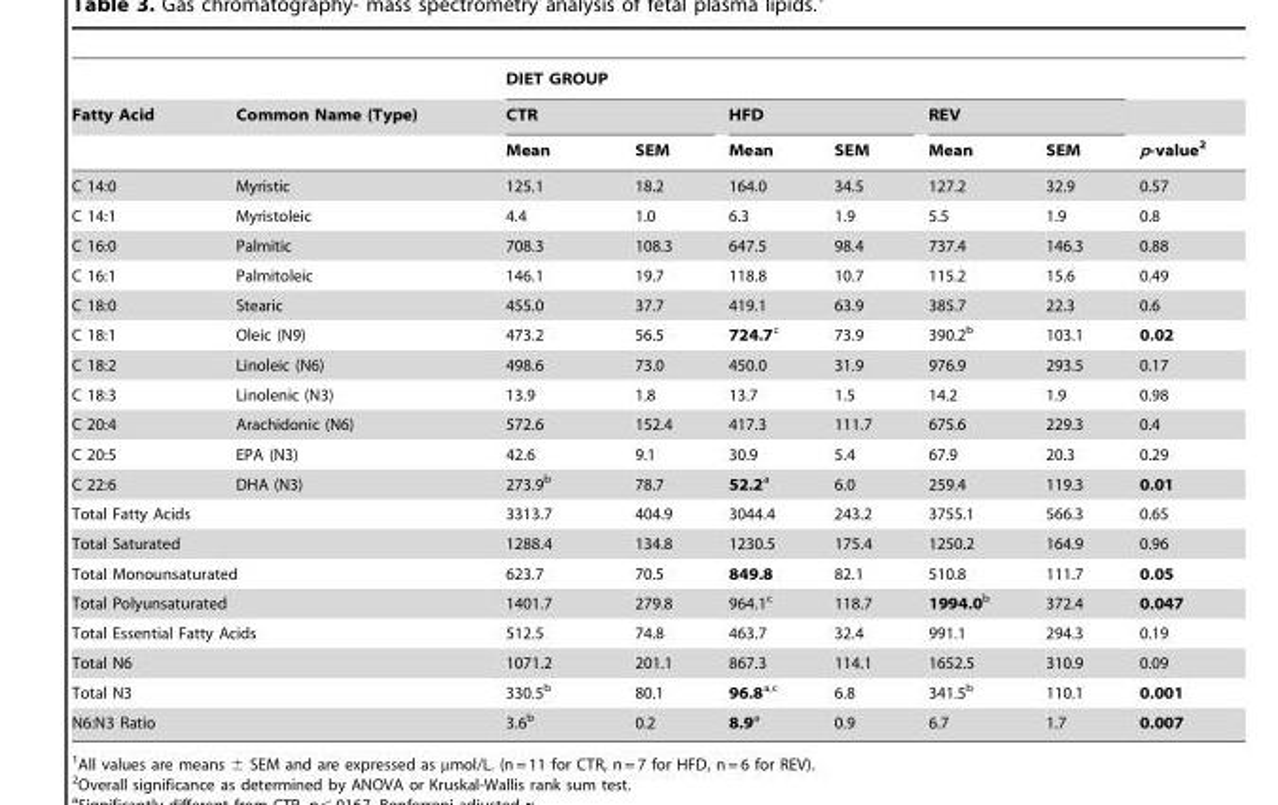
<table><thead><tr><td rowspan="3">Fatty Acid</td><td rowspan="3">Common Name (Type)</td><td colspan="6">DIET GROUP</td><td rowspan="3">p-value<sup>2</sup></td></tr><tr><td colspan="2">CTR</td><td colspan="2">HFD</td><td colspan="2">REV</td></tr><tr><td>Mean</td><td>SEM</td><td>Mean</td><td>SEM</td><td>Mean</td><td>SEM</td></tr></thead><tbody><tr><td>C 14:0</td><td>Myristic</td><td>125.1</td><td>18.2</td><td>164.0</td><td>34.5</td><td>127.2</td><td>32.9</td><td>0.57</td></tr><tr><td>C 14:1</td><td>Myristoleic</td><td>4.4</td><td>1.0</td><td>6.3</td><td>1.9</td><td>5.5</td><td>1.9</td><td>0.8</td></tr><tr><td>C 16:0</td><td>Palmitic</td><td>708.3</td><td>108.3</td><td>647.5</td><td>98.4</td><td>737.4</td><td>146.3</td><td>0.88</td></tr><tr><td>C 16:1</td><td>Palmitoleic</td><td>146.1</td><td>19.7</td><td>118.8</td><td>10.7</td><td>115.2</td><td>15.6</td><td>0.49</td></tr><tr><td>C 18:0</td><td>Stearic</td><td>455.0</td><td>37.7</td><td>419.1</td><td>63.9</td><td>385.7</td><td>22.3</td><td>0.6</td></tr><tr><td>C 18:1</td><td>Oleic (N9)</td><td>473.2</td><td>56.5</td><td>724.7c</td><td>73.9</td><td>390.2<sup>b</sup></td><td>103.1</td><td>0.02</td></tr><tr><td>C 18:2</td><td>Linoleic (N6)</td><td>498.6</td><td>73.0</td><td>450.0</td><td>31.9</td><td>976.9</td><td>293.5</td><td>0.17</td></tr><tr><td>C 18:3</td><td>Linolenic (N3)</td><td>13.9</td><td>1.8</td><td>13.7</td><td>1.5</td><td>14.2</td><td>1.9</td><td>0.98</td></tr><tr><td>C 20:4</td><td>Arachidonic (N6)</td><td>572.6</td><td>152.4</td><td>417.3</td><td>111.7</td><td>675.6</td><td>229.3</td><td>0.4</td></tr><tr><td>C 20:5</td><td>EPA (N3)</td><td>42.6</td><td>9.1</td><td>30.9</td><td>5.4</td><td>67.9</td><td>20.3</td><td>0.29</td></tr><tr><td>C 22:6</td><td>DHA (N3)</td><td>273.9<sup>b</sup></td><td>78.7</td><td>52.2a</td><td>6.0</td><td>259.4</td><td>119.3</td><td>0.01</td></tr><tr><td colspan="2">Total Fatty Acids</td><td>3313.7</td><td>404.9</td><td>3044.4</td><td>243.2</td><td>3755.1</td><td>566.3</td><td>0.65</td></tr><tr><td colspan="2">Total Saturated</td><td>1288.4</td><td>134.8</td><td>1230.5</td><td>175.4</td><td>1250.2</td><td>164.9</td><td>0.96</td></tr><tr><td colspan="2">Total Monounsaturated</td><td>623.7</td><td>70.5</td><td>849.8</td><td>82.1</td><td>510.8</td><td>111.7</td><td>0.05</td></tr><tr><td colspan="2">Total Polyunsaturated</td><td>1401.7</td><td>279.8</td><td>964.1<sup>c</sup></td><td>118.7</td><td>1994.0b</td><td>372.4</td><td>0.047</td></tr><tr><td colspan="2">Total Essential Fatty Acids</td><td>512.5</td><td>74.8</td><td>463.7</td><td>32.4</td><td>991.1</td><td>294.3</td><td>0.19</td></tr><tr><td colspan="2">Total N6</td><td>1071.2</td><td>201.1</td><td>867.3</td><td>114.1</td><td>1652.5</td><td>310.9</td><td>0.09</td></tr><tr><td colspan="2">Total N3</td><td>330.5<sup>b</sup></td><td>80.1</td><td>96.8a,c</td><td>6.8</td><td>341.5<sup>b</sup></td><td>110.1</td><td>0.001</td></tr><tr><td colspan="2">N6:N3 Ratio</td><td>3.6<sup>b</sup></td><td>0.2</td><td>8.9a</td><td>0.9</td><td>6.7</td><td>1.7</td><td>0.007</td></tr></tbody></table>